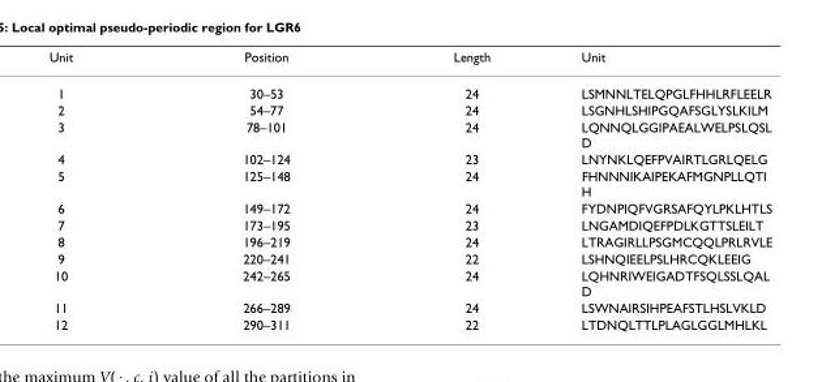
<table><thead><tr><td>Unit</td><td>Position</td><td>Length</td><td>Unit</td></tr></thead><tbody><tr><td>1</td><td>30–53</td><td>24</td><td>LSMNNLTELQPGLFHHLRFLEELR</td></tr><tr><td>2</td><td>54–77</td><td>24</td><td>LSGNHLSHIPGQAFSGLYSLKILM</td></tr><tr><td>3</td><td>78–101</td><td>24</td><td>LQNNQLGGIPAEALWELPSLQSL D</td></tr><tr><td>4</td><td>102–124</td><td>23</td><td>LNYNKLQEFPVAIRTLGRLQELG</td></tr><tr><td>5</td><td>125–148</td><td>24</td><td>FHNNNIKAIPEKAFMGNPLLQTI H</td></tr><tr><td>6</td><td>149–172</td><td>24</td><td>FYDNPIQFVGRSAFQYLPKLHTLS</td></tr><tr><td>7</td><td>173–195</td><td>23</td><td>LNGAMDIQEFPDLKGTTSLEILT</td></tr><tr><td>8</td><td>196–219</td><td>24</td><td>LTRAGIRLLPSGMCQQLPRLRVLE</td></tr><tr><td>9</td><td>220–241</td><td>22</td><td>LSHNQIEELPSLHRCQKLEEIG</td></tr><tr><td>10</td><td>242–265</td><td>24</td><td>LQHNRIWEIGADTFSQLSSLQAL D</td></tr><tr><td>11</td><td>266–289</td><td>24</td><td>LSWNAIRSIHPEAFSTLHSLVKLD</td></tr><tr><td>12</td><td>290–311</td><td>22</td><td>LTDNQLTTLPLAGLGGLMHLKL</td></tr></tbody></table>